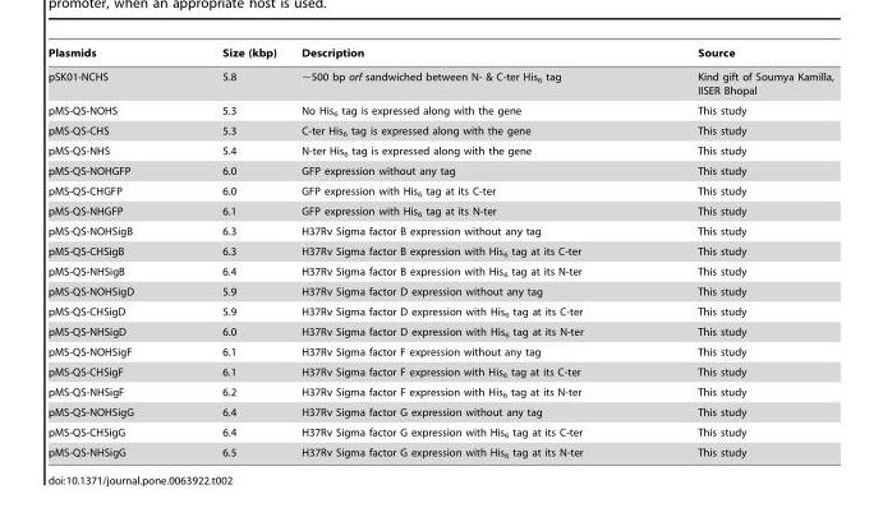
<table><thead><tr><td>Plasmids</td><td>Size (kbp)</td><td>Description</td><td>Source</td></tr></thead><tbody><tr><td>pSK01-NCHS</td><td>5.8</td><td>∼500 bp orf sandwiched between N- &amp; C-ter His<sub>6</sub> tag</td><td>Kind gift of Soumya Kamilla, IISER Bhopal</td></tr><tr><td>pMS-QS-NOHS</td><td>5.3</td><td>No His<sub>6</sub> tag is expressed along with the gene</td><td>This study</td></tr><tr><td>pMS-QS-CHS</td><td>5.3</td><td>C-ter His<sub>6</sub> tag is expressed along with the gene</td><td>This study</td></tr><tr><td>pMS-QS-NHS</td><td>5.4</td><td>N-ter His<sub>6</sub> tag is expressed along with the gene</td><td>This study</td></tr><tr><td>pMS-QS-NOHGFP</td><td>6.0</td><td>GFP expression without any tag</td><td>This study</td></tr><tr><td>pMS-QS-CHGFP</td><td>6.0</td><td>GFP expression with His<sub>6</sub> tag at its C-ter</td><td>This study</td></tr><tr><td>pMS-QS-NHGFP</td><td>6.1</td><td>GFP expression with His<sub>6</sub> tag at its N-ter</td><td>This study</td></tr><tr><td>pMS-QS-NOHSigB</td><td>6.3</td><td>H37Rv Sigma factor B expression without any tag</td><td>This study</td></tr><tr><td>pMS-QS-CHSigB</td><td>6.3</td><td>H37Rv Sigma factor B expression with His<sub>6</sub> tag at its C-ter</td><td>This study</td></tr><tr><td>pMS-QS-NHSigB</td><td>6.4</td><td>H37Rv Sigma factor B expression with His<sub>6</sub> tag at its N-ter</td><td>This study</td></tr><tr><td>pMS-QS-NOHSigD</td><td>5.9</td><td>H37Rv Sigma factor D expression without any tag</td><td>This study</td></tr><tr><td>pMS-QS-CHSigD</td><td>5.9</td><td>H37Rv Sigma factor D expression with His<sub>6</sub> tag at its C-ter</td><td>This study</td></tr><tr><td>pMS-QS-NHSigD</td><td>6.0</td><td>H37Rv Sigma factor D expression with His<sub>6</sub> tag at its N-ter</td><td>This study</td></tr><tr><td>pMS-QS-NOHSigF</td><td>6.1</td><td>H37Rv Sigma factor F expression without any tag</td><td>This study</td></tr><tr><td>pMS-QS-CHSigF</td><td>6.1</td><td>H37Rv Sigma factor F expression with His<sub>6</sub> tag at its C-ter</td><td>This study</td></tr><tr><td>pMS-QS-NHSigF</td><td>6.2</td><td>H37Rv Sigma factor F expression with His<sub>6</sub> tag at its N-ter</td><td>This study</td></tr><tr><td>pMS-QS-NOHSigG</td><td>6.4</td><td>H37Rv Sigma factor G expression without any tag</td><td>This study</td></tr><tr><td>pMS-QS-CHSigG</td><td>6.4</td><td>H37Rv Sigma factor G expression with His<sub>6</sub> tag at its C-ter</td><td>This study</td></tr><tr><td>pMS-QS-NHSigG</td><td>6.5</td><td>H37Rv Sigma factor G expression with His<sub>6</sub> tag at its N-ter</td><td>This study</td></tr></tbody></table>